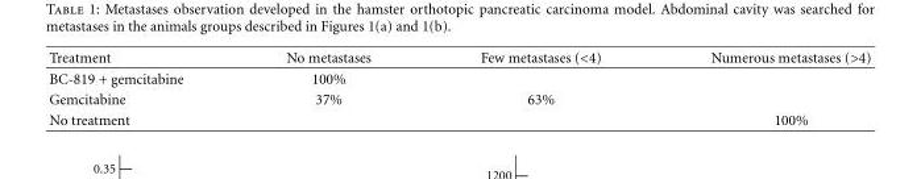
<table><thead><tr><td>Treatment</td><td>No metastases</td><td>Few metastases (&lt;4)</td><td>Numerous metastases (&gt;4)</td></tr></thead><tbody><tr><td>BC-819 + gemcitabine</td><td>100%</td><td></td><td></td></tr><tr><td>Gemcitabine</td><td>37%</td><td>63%</td><td></td></tr><tr><td>No treatment</td><td></td><td></td><td>100%</td></tr></tbody></table>